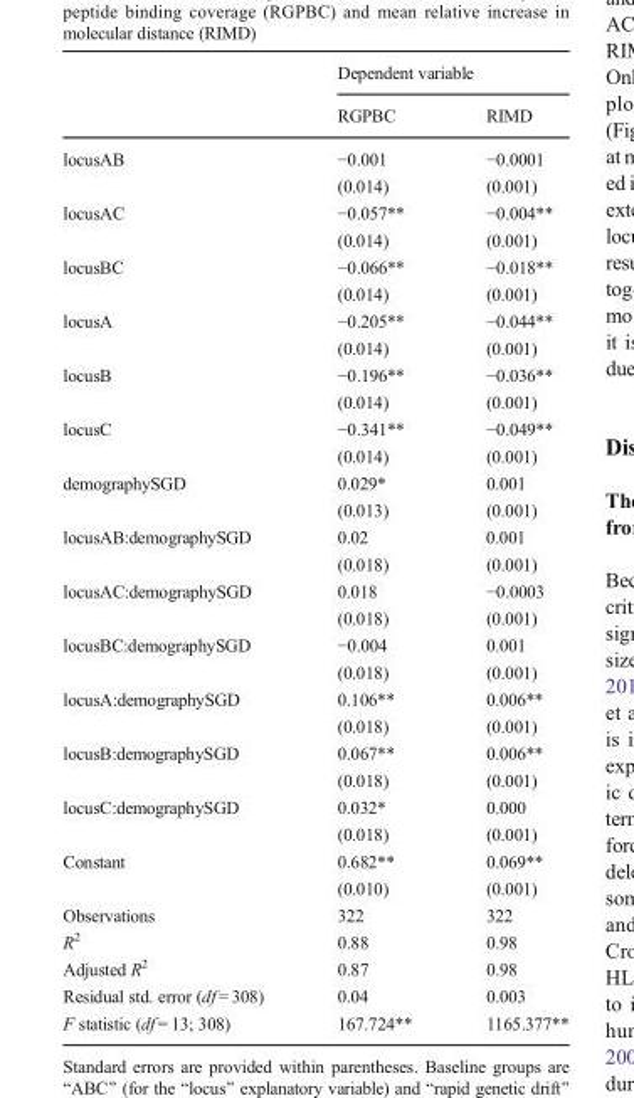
<table><thead><tr><td rowspan="2"></td><td colspan="2">Dependent variable</td></tr><tr><td>RGPBC</td><td>RIMD</td></tr></thead><tbody><tr><td rowspan="2">locusAB</td><td>−0.001</td><td>−0.0001</td></tr><tr><td>(0.014)</td><td>(0.001)</td></tr><tr><td rowspan="2">locusAC</td><td>−0.057**</td><td>−0.004**</td></tr><tr><td>(0.014)</td><td>(0.001)</td></tr><tr><td rowspan="2">locusBC</td><td>−0.066**</td><td>−0.018**</td></tr><tr><td>(0.014)</td><td>(0.001)</td></tr><tr><td rowspan="2">locusA</td><td>−0.205**</td><td>−0.044**</td></tr><tr><td>(0.014)</td><td>(0.001)</td></tr><tr><td rowspan="2">locusB</td><td>−0.196**</td><td>−0.036**</td></tr><tr><td>(0.014)</td><td>(0.001)</td></tr><tr><td rowspan="2">locusC</td><td>−0.341**</td><td>−0.049**</td></tr><tr><td>(0.014)</td><td>(0.001)</td></tr><tr><td rowspan="2">demographySGD</td><td>0.029*</td><td>0.001</td></tr><tr><td>(0.013)</td><td>(0.001)</td></tr><tr><td rowspan="2">locusAB:demographySGD</td><td>0.02</td><td>0.001</td></tr><tr><td>(0.018)</td><td>(0.001)</td></tr><tr><td rowspan="2">locusAC:demographySGD</td><td>0.018</td><td>−0.0003</td></tr><tr><td>(0.018)</td><td>(0.001)</td></tr><tr><td rowspan="2">locusBC:demographySGD</td><td>−0.004</td><td>0.001</td></tr><tr><td>(0.018)</td><td>(0.001)</td></tr><tr><td rowspan="2">locusA:demographySGD</td><td>0.106**</td><td>0.006**</td></tr><tr><td>(0.018)</td><td>(0.001)</td></tr><tr><td rowspan="2">locusB:demographySGD</td><td>0.067**</td><td>0.006**</td></tr><tr><td>(0.018)</td><td>(0.001)</td></tr><tr><td rowspan="2">locusC:demographySGD</td><td>0.032*</td><td>0.000</td></tr><tr><td>(0.018)</td><td>(0.001)</td></tr><tr><td rowspan="2">Constant</td><td>0.682**</td><td>0.069**</td></tr><tr><td>(0.010)</td><td>(0.001)</td></tr><tr><td>Observations</td><td>322</td><td>322</td></tr><tr><td>R<sup>2</sup></td><td>0.88</td><td>0.98</td></tr><tr><td>Adjusted R<sup>2</sup></td><td>0.87</td><td>0.98</td></tr><tr><td>Residual std. error (df = 308)</td><td>0.04</td><td>0.003</td></tr><tr><td>F statistic (df = 13; 308)</td><td>167.724**</td><td>1165.377**</td></tr></tbody></table>